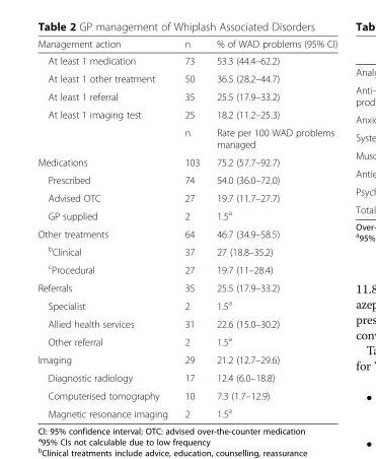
<table><thead><tr><td>Management action</td><td>n</td><td>% of WAD problems (95% CI)</td></tr></thead><tbody><tr><td>At least 1 medication</td><td>73</td><td>53.3 (44.4–62.2)</td></tr><tr><td>At least 1 other treatment</td><td>50</td><td>36.5 (28.2–44.7)</td></tr><tr><td>At least 1 referral</td><td>35</td><td>25.5 (17.9–33.2)</td></tr><tr><td rowspan="2">At least 1 imaging test</td><td>25</td><td>18.2 (11.2–25.3)</td></tr><tr><td>n</td><td>Rate per 100 WAD problems managed</td></tr><tr><td>Medications</td><td>103</td><td>75.2 (57.7–92.7)</td></tr><tr><td>Prescribed</td><td>74</td><td>54.0 (36.0–72.0)</td></tr><tr><td>Advised OTC</td><td>27</td><td>19.7 (11.7–27.7)</td></tr><tr><td>GP supplied</td><td>2</td><td>1.5<sup>a</sup></td></tr><tr><td>Other treatments</td><td>64</td><td>46.7 (34.9–58.5)</td></tr><tr><td><sup>b</sup>Clinical</td><td>37</td><td>27 (18.8–35.2)</td></tr><tr><td><sup>c</sup>Procedural</td><td>27</td><td>19.7 (11–28.4)</td></tr><tr><td>Referrals</td><td>35</td><td>25.5 (17.9–33.2)</td></tr><tr><td>Specialist</td><td>2</td><td>1.5<sup>a</sup></td></tr><tr><td>Allied health services</td><td>31</td><td>22.6 (15.0–30.2)</td></tr><tr><td>Other referral</td><td>2</td><td>1.5<sup>a</sup></td></tr><tr><td>Imaging</td><td>29</td><td>21.2 (12.7–29.6)</td></tr><tr><td>Diagnostic radiology</td><td>17</td><td>12.4 (6.0–18.8)</td></tr><tr><td>Computerised tomography</td><td>10</td><td>7.3 (1.7–12.9)</td></tr><tr><td>Magnetic resonance imaging</td><td>2</td><td>1.5<sup>a</sup></td></tr></tbody></table>